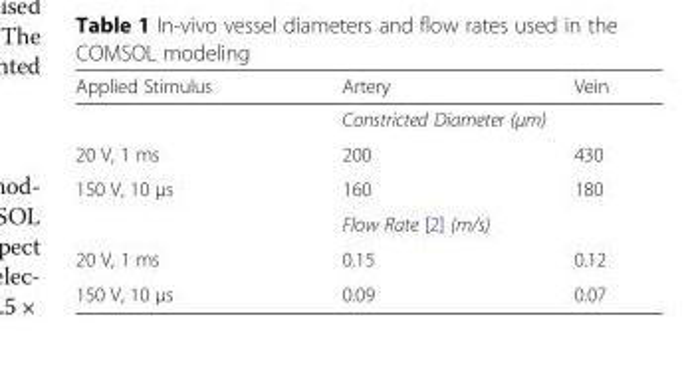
<table><thead><tr><td>Applied Stimulus</td><td>Artery</td><td>Vein</td></tr></thead><tbody><tr><td></td><td colspan="2">Constricted Diameter (μm)</td></tr><tr><td>20 V, 1 ms</td><td>200</td><td>430</td></tr><tr><td rowspan="2">150 V, 10 μs</td><td>160</td><td>180</td></tr><tr><td colspan="2">Flow Rate [2] (m/s)</td></tr><tr><td>20 V, 1 ms</td><td>0.15</td><td>0.12</td></tr><tr><td>150 V, 10 μs</td><td>0.09</td><td>0.07</td></tr></tbody></table>